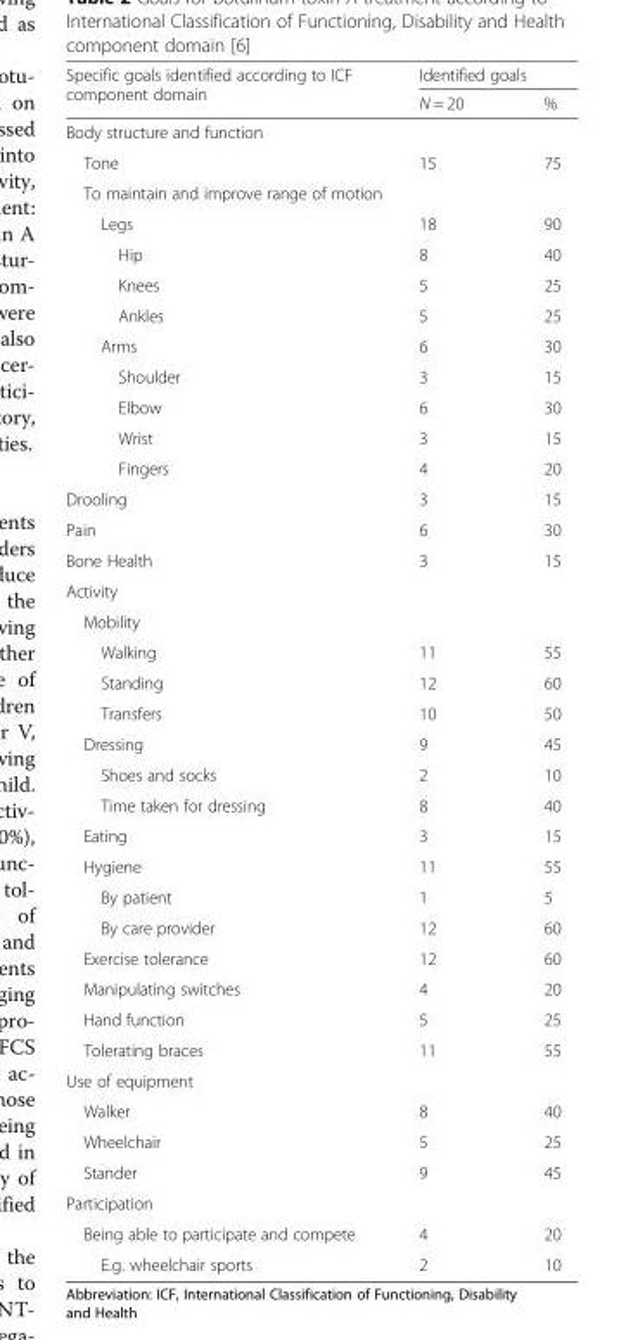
<table><thead><tr><td rowspan="2">Specific goals identified according to ICF component domain</td><td colspan="2">Identified goals</td></tr><tr><td>N = 20</td><td>%</td></tr></thead><tbody><tr><td colspan="3">Body structure and function</td></tr><tr><td>Tone</td><td>15</td><td>75</td></tr><tr><td colspan="3">To maintain and improve range of motion</td></tr><tr><td>Legs</td><td>18</td><td>90</td></tr><tr><td>Hip</td><td>8</td><td>40</td></tr><tr><td>Knees</td><td>5</td><td>25</td></tr><tr><td>Ankles</td><td>5</td><td>25</td></tr><tr><td>Arms</td><td>6</td><td>30</td></tr><tr><td>Shoulder</td><td>3</td><td>15</td></tr><tr><td>Elbow</td><td>6</td><td>30</td></tr><tr><td>Wrist</td><td>3</td><td>15</td></tr><tr><td>Fingers</td><td>4</td><td>20</td></tr><tr><td>Drooling</td><td>3</td><td>15</td></tr><tr><td>Pain</td><td>6</td><td>30</td></tr><tr><td>Bone Health</td><td>3</td><td>15</td></tr><tr><td colspan="3">Activity</td></tr><tr><td colspan="3">Mobility</td></tr><tr><td>Walking</td><td>11</td><td>55</td></tr><tr><td>Standing</td><td>12</td><td>60</td></tr><tr><td>Transfers</td><td>10</td><td>50</td></tr><tr><td>Dressing</td><td>9</td><td>45</td></tr><tr><td>Shoes and socks</td><td>2</td><td>10</td></tr><tr><td>Time taken for dressing</td><td>8</td><td>40</td></tr><tr><td>Eating</td><td>3</td><td>15</td></tr><tr><td>Hygiene</td><td>11</td><td>55</td></tr><tr><td>By patient</td><td>1</td><td>5</td></tr><tr><td>By care provider</td><td>12</td><td>60</td></tr><tr><td>Exercise tolerance</td><td>12</td><td>60</td></tr><tr><td>Manipulating switches</td><td>4</td><td>20</td></tr><tr><td>Hand function</td><td>5</td><td>25</td></tr><tr><td>Tolerating braces</td><td>11</td><td>55</td></tr><tr><td colspan="3">Use of equipment</td></tr><tr><td>Walker</td><td>8</td><td>40</td></tr><tr><td>Wheelchair</td><td>5</td><td>25</td></tr><tr><td>Stander</td><td>9</td><td>45</td></tr><tr><td colspan="3">Participation</td></tr><tr><td>Being able to participate and compete</td><td>4</td><td>20</td></tr><tr><td>E.g. wheelchair sports</td><td>2</td><td>10</td></tr></tbody></table>